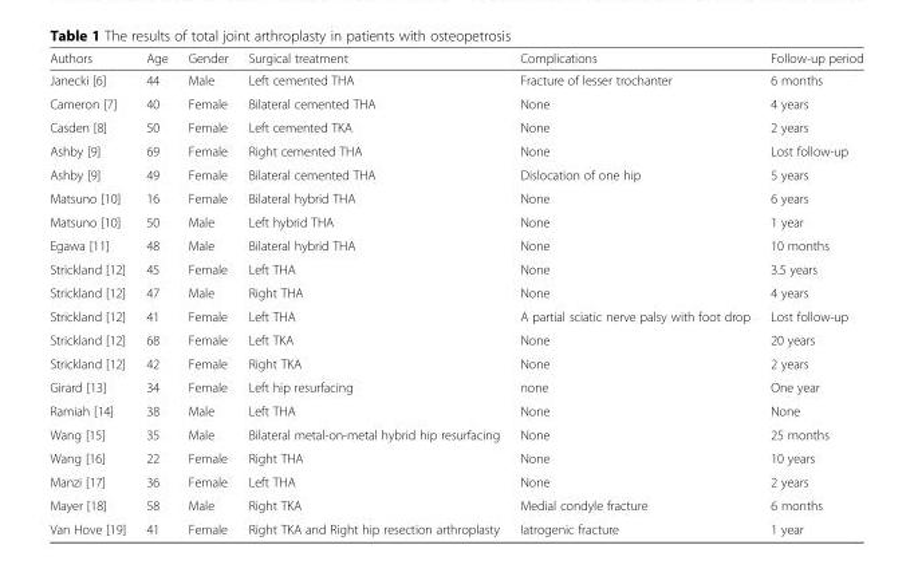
<table><thead><tr><td>Authors</td><td>Age</td><td>Gender</td><td>Surgical treatment</td><td>Complications</td><td>Follow-up period</td></tr></thead><tbody><tr><td>Janecki [6]</td><td>44</td><td>Male</td><td>Left cemented THA</td><td>Fracture of lesser trochanter</td><td>6 months</td></tr><tr><td>Cameron [7]</td><td>40</td><td>Female</td><td>Bilateral cemented THA</td><td>None</td><td>4 years</td></tr><tr><td>Casden [8]</td><td>50</td><td>Female</td><td>Left cemented TKA</td><td>None</td><td>2 years</td></tr><tr><td>Ashby [9]</td><td>69</td><td>Female</td><td>Right cemented THA</td><td>None</td><td>Lost follow-up</td></tr><tr><td>Ashby [9]</td><td>49</td><td>Female</td><td>Bilateral cemented THA</td><td>Dislocation of one hip</td><td>5 years</td></tr><tr><td>Matsuno [10]</td><td>16</td><td>Female</td><td>Bilateral hybrid THA</td><td>None</td><td>6 years</td></tr><tr><td>Matsuno [10]</td><td>50</td><td>Male</td><td>Left hybrid THA</td><td>None</td><td>1 year</td></tr><tr><td>Egawa [11]</td><td>48</td><td>Male</td><td>Bilateral hybrid THA</td><td>None</td><td>10 months</td></tr><tr><td>Strickland [12]</td><td>45</td><td>Female</td><td>Left THA</td><td>None</td><td>3.5 years</td></tr><tr><td>Strickland [12]</td><td>47</td><td>Male</td><td>Right THA</td><td>None</td><td>4 years</td></tr><tr><td>Strickland [12]</td><td>41</td><td>Female</td><td>Left THA</td><td>A partial sciatic nerve palsy with foot drop</td><td>Lost follow-up</td></tr><tr><td>Strickland [12]</td><td>68</td><td>Female</td><td>Left TKA</td><td>None</td><td>20 years</td></tr><tr><td>Strickland [12]</td><td>42</td><td>Female</td><td>Right TKA</td><td>None</td><td>2 years</td></tr><tr><td>Girard [13]</td><td>34</td><td>Female</td><td>Left hip resurfacing</td><td>none</td><td>One year</td></tr><tr><td>Ramiah [14]</td><td>38</td><td>Male</td><td>Left THA</td><td>None</td><td>None</td></tr><tr><td>Wang [15]</td><td>35</td><td>Male</td><td>Bilateral metal-on-metal hybrid hip resurfacing</td><td>None</td><td>25 months</td></tr><tr><td>Wang [16]</td><td>22</td><td>Female</td><td>Right THA</td><td>None</td><td>10 years</td></tr><tr><td>Manzi [17]</td><td>36</td><td>Female</td><td>Left THA</td><td>None</td><td>2 years</td></tr><tr><td>Mayer [18]</td><td>58</td><td>Male</td><td>Right TKA</td><td>Medial condyle fracture</td><td>6 months</td></tr><tr><td>Van Hove [19]</td><td>41</td><td>Female</td><td>Right TKA and Right hip resection arthroplasty</td><td>Iatrogenic fracture</td><td>1 year</td></tr></tbody></table>